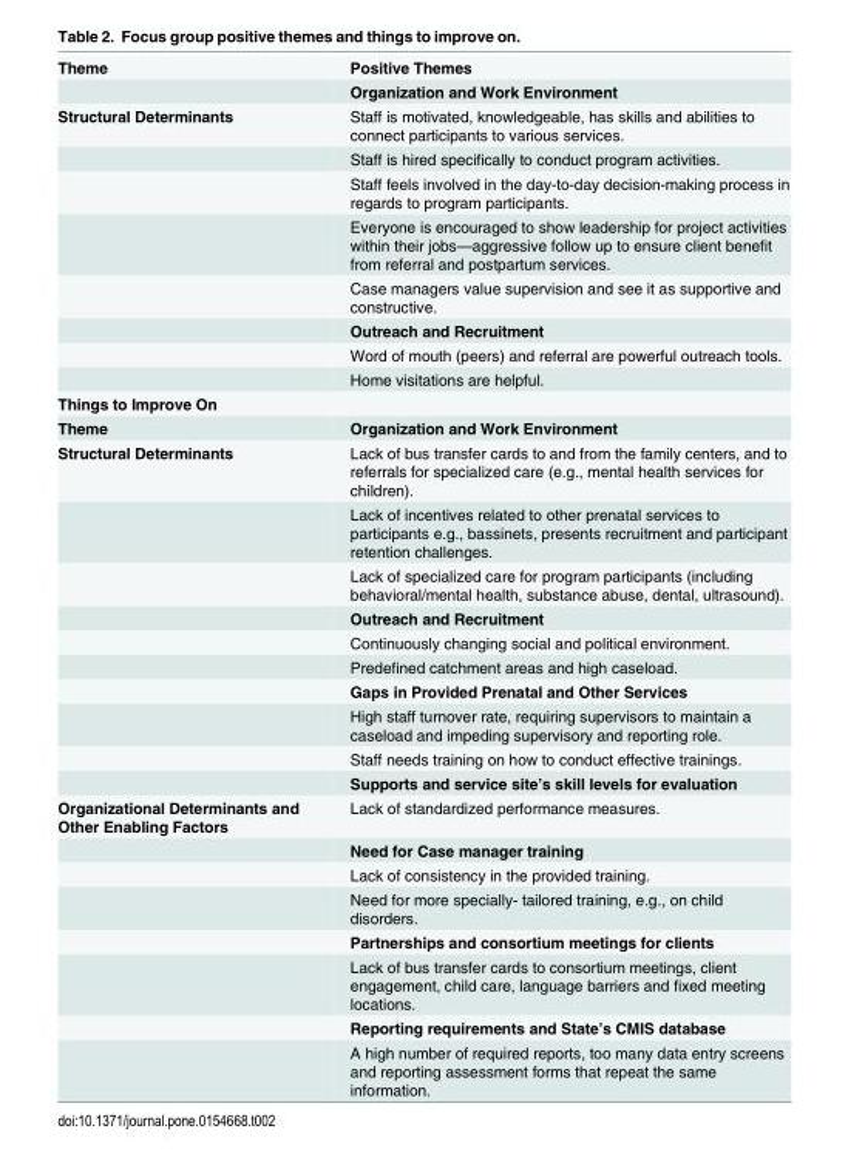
<table><tbody><tr><td rowspan="2">Theme</td><td>Positive Themes</td></tr><tr><td>Organization and Work Environment</td></tr><tr><td rowspan="8">Structural Determinants</td><td>Staff is motivated, knowledgeable, has skills and abilities to connect participants to various services.</td></tr><tr><td>Staff is hired specifically to conduct program activities.</td></tr><tr><td>Staff feels involved in the day-to-day decision-making process in regards to program participants.</td></tr><tr><td>Everyone is encouraged to show leadership for project activities within their jobs—aggressive follow up to ensure client benefit from referral and postpartum services.</td></tr><tr><td>Case managers value supervision and see it as supportive and constructive.</td></tr><tr><td>Outreach and Recruitment</td></tr><tr><td>Word of mouth (peers) and referral are powerful outreach tools.</td></tr><tr><td>Home visitations are helpful.</td></tr><tr><td colspan="2">Things to Improve On</td></tr><tr><td>Theme</td><td>Organization and Work Environment</td></tr><tr><td rowspan="10">Structural Determinants</td><td>Lack of bus transfer cards to and from the family centers, and to referrals for specialized care (e.g., mental health services for children).</td></tr><tr><td>Lack of incentives related to other prenatal services to participants e.g., bassinets, presents recruitment and participant retention challenges.</td></tr><tr><td>Lack of specialized care for program participants (including behavioral/mental health, substance abuse, dental, ultrasound).</td></tr><tr><td>Outreach and Recruitment</td></tr><tr><td>Continuously changing social and political environment.</td></tr><tr><td>Predefined catchment areas and high caseload.</td></tr><tr><td>Gaps in Provided Prenatal and Other Services</td></tr><tr><td>High staff turnover rate, requiring supervisors to maintain a caseload and impeding supervisory and reporting role.</td></tr><tr><td>Staff needs training on how to conduct effective trainings.</td></tr><tr><td>Supports and service site’s skill levels for evaluation</td></tr><tr><td rowspan="8">Organizational Determinants and Other Enabling Factors</td><td>Lack of standardized performance measures.</td></tr><tr><td>Need for Case manager training</td></tr><tr><td>Lack of consistency in the provided training.</td></tr><tr><td>Need for more specially- tailored training, e.g., on child disorders.</td></tr><tr><td>Partnerships and consortium meetings for clients</td></tr><tr><td>Lack of bus transfer cards to consortium meetings, client engagement, child care, language barriers and fixed meeting locations.</td></tr><tr><td>Reporting requirements and State’s CMIS database</td></tr><tr><td>A high number of required reports, too many data entry screens and reporting assessment forms that repeat the same information.</td></tr></tbody></table>